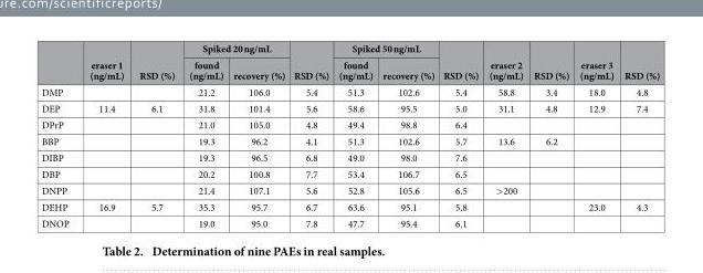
<table><thead><tr><td rowspan="2"></td><td rowspan="2">eraser 1 (ng/mL)</td><td rowspan="2">RSD (%)</td><td colspan="2">Spiked 20 ng/mL</td><td rowspan="2">RSD (%)</td><td colspan="2">Spiked 50 ng/mL</td><td rowspan="2">RSD (%)</td><td rowspan="2">eraser 2 (ng/mL)</td><td rowspan="2">RSD (%)</td><td rowspan="2">eraser 3 (ng/mL)</td><td rowspan="2">RSD (%)</td></tr><tr><td>found (ng/mL)</td><td>recovery (%)</td><td>found (ng/mL)</td><td>recovery (%)</td></tr></thead><tbody><tr><td>DMP</td><td></td><td></td><td>21.2</td><td>106.0</td><td>5.4</td><td>51.3</td><td>102.6</td><td>5.4</td><td>58.8</td><td>3.4</td><td>18.0</td><td>4.8</td></tr><tr><td>DEP</td><td>11.4</td><td>6.1</td><td>31.8</td><td>101.4</td><td>5.6</td><td>58.6</td><td>95.5</td><td>5.0</td><td>31.1</td><td>4.8</td><td>12.9</td><td>7.4</td></tr><tr><td>DPrP</td><td></td><td></td><td>21.0</td><td>105.0</td><td>4.8</td><td>49.4</td><td>98.8</td><td>6.4</td><td></td><td></td><td></td><td></td></tr><tr><td>BBP</td><td></td><td></td><td>19.3</td><td>96.2</td><td>4.1</td><td>51.3</td><td>102.6</td><td>5.7</td><td>13.6</td><td>6.2</td><td></td><td></td></tr><tr><td>DIBP</td><td></td><td></td><td>19.3</td><td>96.5</td><td>6.8</td><td>49.0</td><td>98.0</td><td>7.6</td><td></td><td></td><td></td><td></td></tr><tr><td>DBP</td><td></td><td></td><td>20.2</td><td>100.8</td><td>7.7</td><td>53.4</td><td>106.7</td><td>6.5</td><td></td><td></td><td></td><td></td></tr><tr><td>DNPP</td><td></td><td></td><td>21.4</td><td>107.1</td><td>5.6</td><td>52.8</td><td>105.6</td><td>6.5</td><td>&gt; 200</td><td></td><td></td><td></td></tr><tr><td>DEHP</td><td>16.9</td><td>5.7</td><td>35.3</td><td>95.7</td><td>6.7</td><td>63.6</td><td>95.1</td><td>5.8</td><td></td><td></td><td>23.0</td><td>4.3</td></tr><tr><td>DNOP</td><td></td><td></td><td>19.0</td><td>95.0</td><td>7.8</td><td>47.7</td><td>95.4</td><td>6.1</td><td></td><td></td><td></td><td></td></tr></tbody></table>